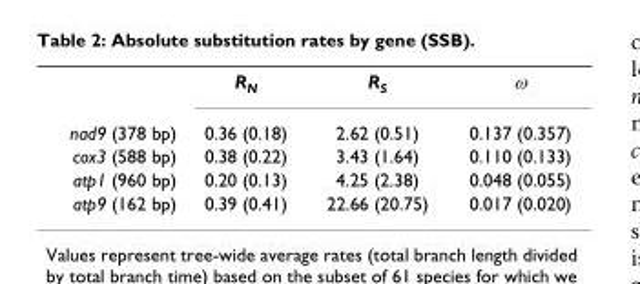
<table><thead><tr><td></td><td>R<sub>N</sub></td><td>R<sub>S</sub></td><td>ω</td></tr></thead><tbody><tr><td>nad9 (378 bp)</td><td>0.36 (0.18)</td><td>2.62 (0.51)</td><td>0.137 (0.357)</td></tr><tr><td>cox3 (588 bp)</td><td>0.38 (0.22)</td><td>3.43 (1.64)</td><td>0.110 (0.133)</td></tr><tr><td>atp1 (960 bp)</td><td>0.20 (0.13)</td><td>4.25 (2.38)</td><td>0.048 (0.055)</td></tr><tr><td>atp9 (162 bp)</td><td>0.39 (0.41)</td><td>22.66 (20.75)</td><td>0.017 (0.020)</td></tr></tbody></table>